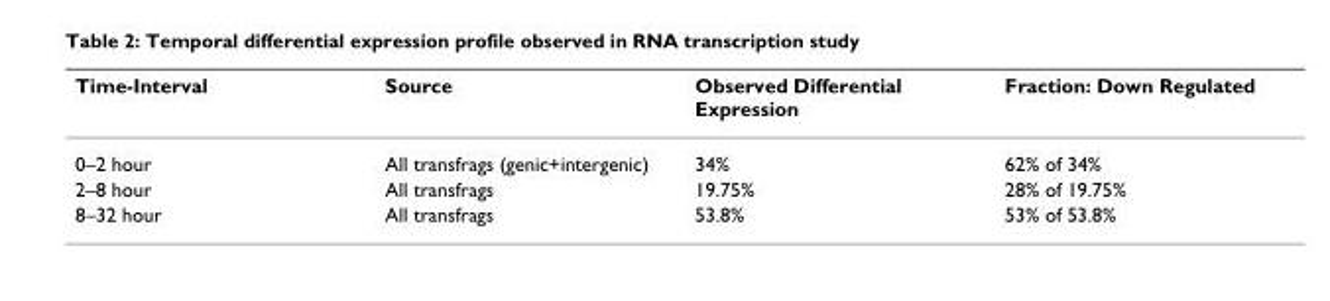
<table><thead><tr><td>Time-Interval</td><td>Source</td><td>Observed Differential Expression</td><td>Fraction: Down Regulated</td></tr></thead><tbody><tr><td>0–2 hour</td><td>All transfrags (genic+intergenic)</td><td>34%</td><td>62% of 34%</td></tr><tr><td>2–8 hour</td><td>All transfrags</td><td>19.75%</td><td>28% of 19.75%</td></tr><tr><td>8–32 hour</td><td>All transfrags</td><td>53.8%</td><td>53% of 53.8%</td></tr></tbody></table>